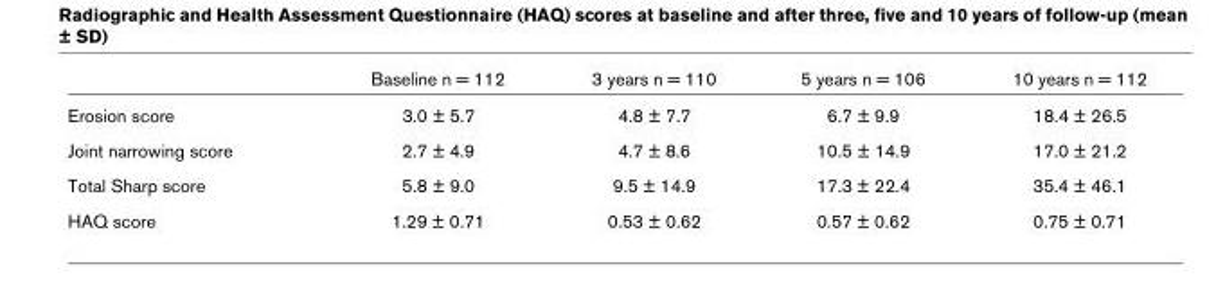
<table><thead><tr><td></td><td>Baseline n = 112</td><td>3 years n = 110</td><td>5 years n = 106</td><td>10 years n = 112</td></tr></thead><tbody><tr><td>Erosion score</td><td>3.0 ± 5.7</td><td>4.8 ± 7.7</td><td>6.7 ± 9.9</td><td>18.4 ± 26.5</td></tr><tr><td>Joint narrowing score</td><td>2.7 ± 4.9</td><td>4.7 ± 8.6</td><td>10.5 ± 14.9</td><td>17.0 ± 21.2</td></tr><tr><td>Total Sharp score</td><td>5.8 ± 9.0</td><td>9.5 ± 14.9</td><td>17.3 ± 22.4</td><td>35.4 ± 46.1</td></tr><tr><td>HAQ score</td><td>1.29 ± 0.71</td><td>0.53 ± 0.62</td><td>0.57 ± 0.62</td><td>0.75 ± 0.71</td></tr></tbody></table>